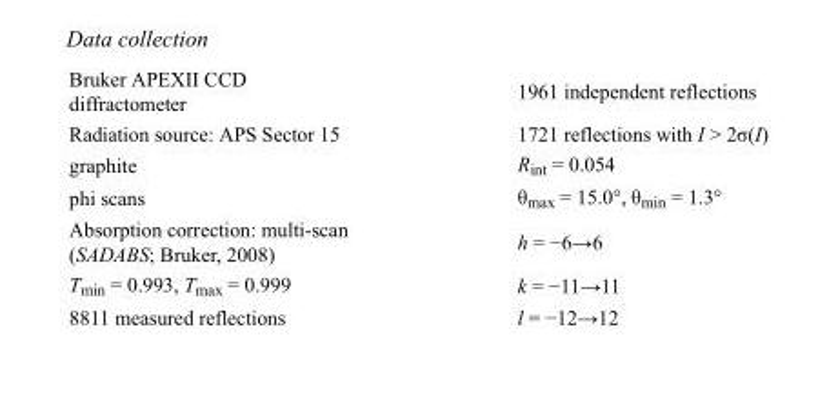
<table><tbody><tr><td>Bruker APEXII CCD diffractometer</td><td>1961 independent reflections</td></tr><tr><td>Radiation source: APS Sector 15</td><td>1721 reflections with I &gt; 2σ(I)</td></tr><tr><td>graphite</td><td>R<sub>int</sub> = 0.054</td></tr><tr><td>phi scans</td><td>θ<sub>max</sub> = 15.0°, θ<sub>min</sub> = 1.3°</td></tr><tr><td>Absorption correction: multi-scan (SADABS; Bruker, 2008)</td><td>h = −6→6</td></tr><tr><td>T<sub>min</sub> = 0.993, T<sub>max</sub> = 0.999</td><td>k = −11→11</td></tr><tr><td>8811 measured reflections</td><td>l = −12→12</td></tr></tbody></table>